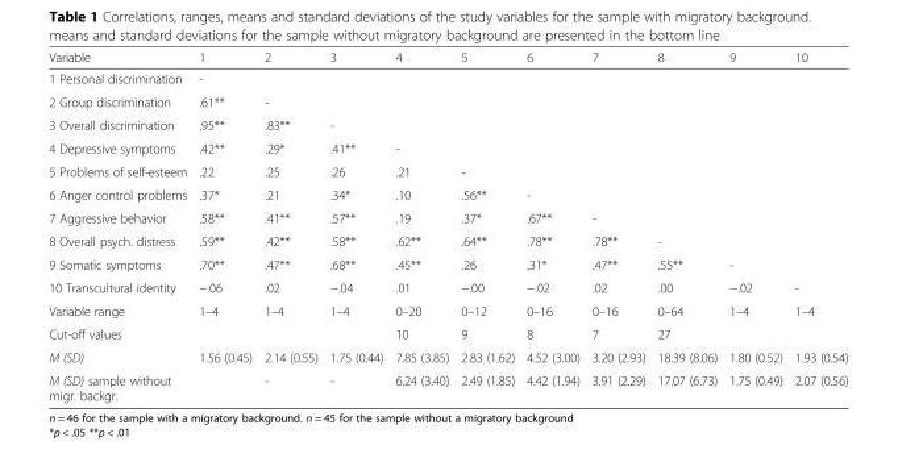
<table><thead><tr><td>Variable</td><td>1</td><td>2</td><td>3</td><td>4</td><td>5</td><td>6</td><td>7</td><td>8</td><td>9</td><td>10</td></tr></thead><tbody><tr><td>1 Personal discrimination</td><td>-</td><td></td><td></td><td></td><td></td><td></td><td></td><td></td><td></td><td></td></tr><tr><td>2 Group discrimination</td><td>.61**</td><td>-</td><td></td><td></td><td></td><td></td><td></td><td></td><td></td><td></td></tr><tr><td>3 Overall discrimination</td><td>.95**</td><td>.83**</td><td>-</td><td></td><td></td><td></td><td></td><td></td><td></td><td></td></tr><tr><td>4 Depressive symptoms</td><td>.42**</td><td>.29*</td><td>.41**</td><td>-</td><td></td><td></td><td></td><td></td><td></td><td></td></tr><tr><td>5 Problems of self-esteem</td><td>.22</td><td>.25</td><td>.26</td><td>.21</td><td>-</td><td></td><td></td><td></td><td></td><td></td></tr><tr><td>6 Anger control problems</td><td>.37*</td><td>.21</td><td>.34*</td><td>.10</td><td>.56**</td><td>-</td><td></td><td></td><td></td><td></td></tr><tr><td>7 Aggressive behavior</td><td>.58**</td><td>.41**</td><td>.57**</td><td>.19</td><td>.37*</td><td>.67**</td><td>-</td><td></td><td></td><td></td></tr><tr><td>8 Overall psych. distress</td><td>.59**</td><td>.42**</td><td>.58**</td><td>.62**</td><td>.64**</td><td>.78**</td><td>.78**</td><td>-</td><td></td><td></td></tr><tr><td>9 Somatic symptoms</td><td>.70**</td><td>.47**</td><td>.68**</td><td>.45**</td><td>.26</td><td>.31*</td><td>.47**</td><td>.55**</td><td>-</td><td></td></tr><tr><td>10 Transcultural identity</td><td>−.06</td><td>.02</td><td>−.04</td><td>.01</td><td>−.00</td><td>−.02</td><td>.02</td><td>.00</td><td>−.02</td><td>-</td></tr><tr><td>Variable range</td><td>1–4</td><td>1–4</td><td>1–4</td><td>0–20</td><td>0–12</td><td>0–16</td><td>0–16</td><td>0–64</td><td>1–4</td><td>1–4</td></tr><tr><td>Cut-off values</td><td></td><td></td><td></td><td>10</td><td>9</td><td>8</td><td>7</td><td>27</td><td></td><td></td></tr><tr><td>M (SD)</td><td>1.56 (0.45)</td><td>2.14 (0.55)</td><td>1.75 (0.44)</td><td>7.85 (3.85)</td><td>2.83 (1.62)</td><td>4.52 (3.00)</td><td>3.20 (2.93)</td><td>18.39 (8.06)</td><td>1.80 (0.52)</td><td>1.93 (0.54)</td></tr><tr><td>M (SD) sample without migr. backgr.</td><td></td><td>-</td><td>-</td><td>6.24 (3.40)</td><td>2.49 (1.85)</td><td>4.42 (1.94)</td><td>3.91 (2.29)</td><td>17.07 (6.73)</td><td>1.75 (0.49)</td><td>2.07 (0.56)</td></tr></tbody></table>